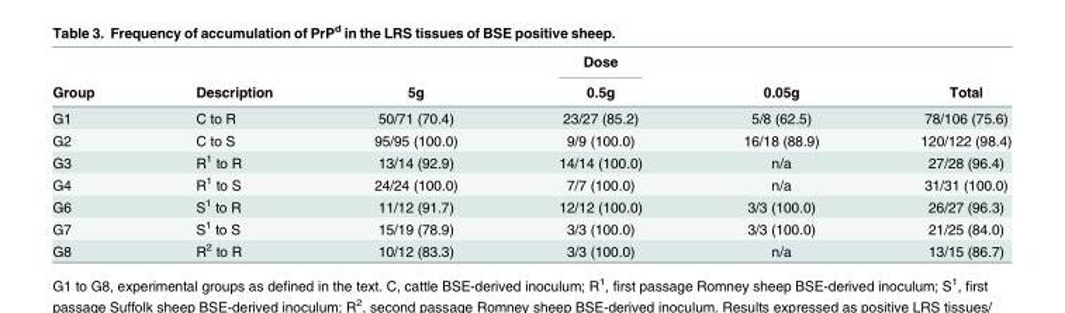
<table><thead><tr><td rowspan="2">Group</td><td rowspan="2">Description</td><td rowspan="2">5g</td><td rowspan="2">Dose 0.5g</td><td rowspan="2">0.05g</td><td rowspan="2">Total</td></tr><tr></tr></thead><tbody><tr><td>G1</td><td>C to R</td><td>50/71 (70.4)</td><td>23/27 (85.2)</td><td>5/8 (62.5)</td><td>78/106 (75.6)</td></tr><tr><td>G2</td><td>C to S</td><td>95/95 (100.0)</td><td>9/9 (100.0)</td><td>16/18 (88.9)</td><td>120/122 (98.4)</td></tr><tr><td>G3</td><td>R<sup>1</sup> to R</td><td>13/14 (92.9)</td><td>14/14 (100.0)</td><td>n/a</td><td>27/28 (96.4)</td></tr><tr><td>G4</td><td>R<sup>1</sup> to S</td><td>24/24 (100.0)</td><td>7/7 (100.0)</td><td>n/a</td><td>31/31 (100.0)</td></tr><tr><td>G6</td><td>S<sup>1</sup> to R</td><td>11/12 (91.7)</td><td>12/12 (100.0)</td><td>3/3 (100.0)</td><td>26/27 (96.3)</td></tr><tr><td>G7</td><td>S<sup>1</sup> to S</td><td>15/19 (78.9)</td><td>3/3 (100.0)</td><td>3/3 (100.0)</td><td>21/25 (84.0)</td></tr><tr><td>G8</td><td>R<sup>2</sup> to R</td><td>10/12 (83.3)</td><td>3/3 (100.0)</td><td>n/a</td><td>13/15 (86.7)</td></tr></tbody></table>